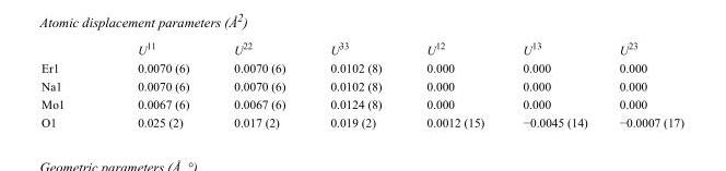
<table><thead><tr><td></td><td>U<sup>11</sup></td><td>U<sup>22</sup></td><td>U<sup>33</sup></td><td>U<sup>12</sup></td><td>U<sup>13</sup></td><td>U<sup>23</sup></td></tr></thead><tbody><tr><td>Er1</td><td>0.0070 (6)</td><td>0.0070 (6)</td><td>0.0102 (8)</td><td>0.000</td><td>0.000</td><td>0.000</td></tr><tr><td>Na1</td><td>0.0070 (6)</td><td>0.0070 (6)</td><td>0.0102 (8)</td><td>0.000</td><td>0.000</td><td>0.000</td></tr><tr><td>Mo1</td><td>0.0067 (6)</td><td>0.0067 (6)</td><td>0.0124 (8)</td><td>0.000</td><td>0.000</td><td>0.000</td></tr><tr><td>O1</td><td>0.025 (2)</td><td>0.017 (2)</td><td>0.019 (2)</td><td>0.0012 (15)</td><td>−0.0045 (14)</td><td>−0.0007 (17)</td></tr></tbody></table>